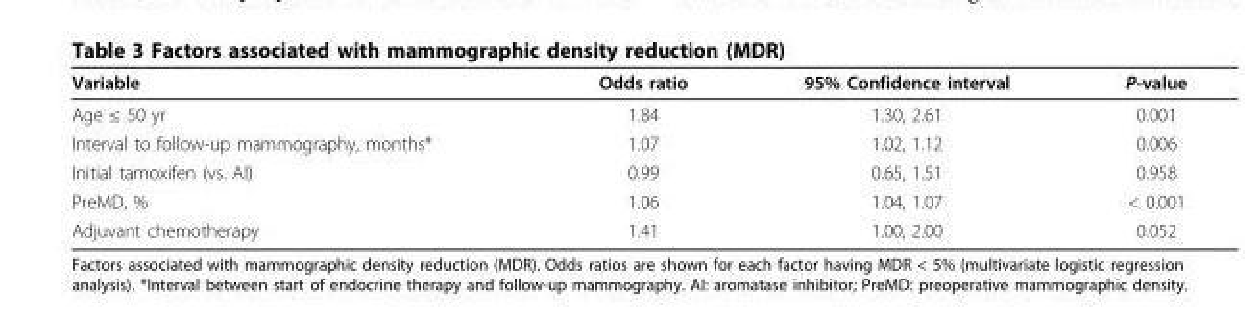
<table><thead><tr><td>Variable</td><td>Odds ratio</td><td>95% Confidence interval</td><td>P-value</td></tr></thead><tbody><tr><td>Age ≤ 50 yr</td><td>1.84</td><td>1.30, 2.61</td><td>0.001</td></tr><tr><td>Interval to follow-up mammography, months*</td><td>1.07</td><td>1.02, 1.12</td><td>0.006</td></tr><tr><td>Initial tamoxifen (vs. AI)</td><td>0.99</td><td>0.65, 1.51</td><td>0.958</td></tr><tr><td>PreMD, %</td><td>1.06</td><td>1.04, 1.07</td><td>&lt; 0.001</td></tr><tr><td>Adjuvant chemotherapy</td><td>1.41</td><td>1.00, 2.00</td><td>0.052</td></tr></tbody></table>